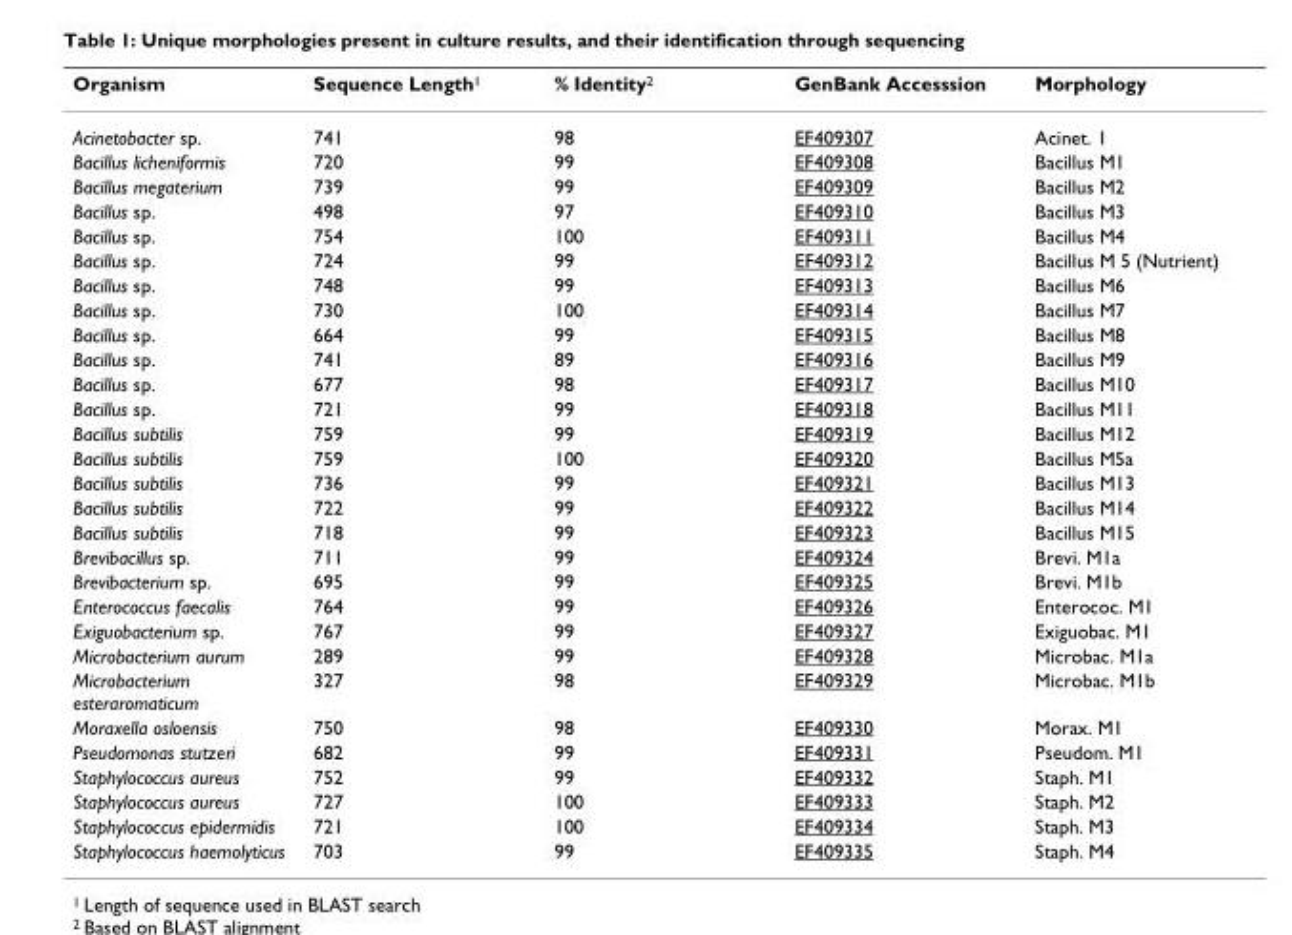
<table><thead><tr><td>Organism</td><td>Sequence Length<sup>1</sup></td><td>% Identity<sup>2</sup></td><td>GenBank Accesssion</td><td>Morphology</td></tr></thead><tbody><tr><td>Acinetobacter sp.</td><td>741</td><td>98</td><td>EF409307</td><td>Acinet. 1</td></tr><tr><td>Bacillus licheniformis</td><td>720</td><td>99</td><td>EF409308</td><td>Bacillus M1</td></tr><tr><td>Bacillus megaterium</td><td>739</td><td>99</td><td>EF409309</td><td>Bacillus M2</td></tr><tr><td>Bacillus sp.</td><td>498</td><td>97</td><td>EF409310</td><td>Bacillus M3</td></tr><tr><td>Bacillus sp.</td><td>754</td><td>100</td><td>EF409311</td><td>Bacillus M4</td></tr><tr><td>Bacillus sp.</td><td>724</td><td>99</td><td>EF409312</td><td>Bacillus M 5 (Nutrient)</td></tr><tr><td>Bacillus sp.</td><td>748</td><td>99</td><td>EF409313</td><td>Bacillus M6</td></tr><tr><td>Bacillus sp.</td><td>730</td><td>100</td><td>EF409314</td><td>Bacillus M7</td></tr><tr><td>Bacillus sp.</td><td>664</td><td>99</td><td>EF409315</td><td>Bacillus M8</td></tr><tr><td>Bacillus sp.</td><td>741</td><td>89</td><td>EF409316</td><td>Bacillus M9</td></tr><tr><td>Bacillus sp.</td><td>677</td><td>98</td><td>EF409317</td><td>Bacillus M10</td></tr><tr><td>Bacillus sp.</td><td>721</td><td>99</td><td>EF409318</td><td>Bacillus M11</td></tr><tr><td>Bacillus subtilis</td><td>759</td><td>99</td><td>EF409319</td><td>Bacillus M12</td></tr><tr><td>Bacillus subtilis</td><td>759</td><td>100</td><td>EF409320</td><td>Bacillus M5a</td></tr><tr><td>Bacillus subtilis</td><td>736</td><td>99</td><td>EF409321</td><td>Bacillus M13</td></tr><tr><td>Bacillus subtilis</td><td>722</td><td>99</td><td>EF409322</td><td>Bacillus M14</td></tr><tr><td>Bacillus subtilis</td><td>718</td><td>99</td><td>EF409323</td><td>Bacillus M15</td></tr><tr><td>Brevibacillus sp.</td><td>711</td><td>99</td><td>EF409324</td><td>Brevi. M1a</td></tr><tr><td>Brevibacterium sp.</td><td>695</td><td>99</td><td>EF409325</td><td>Brevi. M1b</td></tr><tr><td>Enterococcus faecalis</td><td>764</td><td>99</td><td>EF409326</td><td>Enterococ. M1</td></tr><tr><td>Exiguobacterium sp.</td><td>767</td><td>99</td><td>EF409327</td><td>Exiguobac. M1</td></tr><tr><td>Microbacterium aurum</td><td>289</td><td>99</td><td>EF409328</td><td>Microbac. M1a</td></tr><tr><td>Microbacterium esteraromaticum</td><td>327</td><td>98</td><td>EF409329</td><td>Microbac. M1b</td></tr><tr><td>Moraxella osloensis</td><td>750</td><td>98</td><td>EF409330</td><td>Morax. M1</td></tr><tr><td>Pseudomonas stutzeri</td><td>682</td><td>99</td><td>EF409331</td><td>Pseudom. M1</td></tr><tr><td>Staphylococcus aureus</td><td>752</td><td>99</td><td>EF409332</td><td>Staph. M1</td></tr><tr><td>Staphylococcus aureus</td><td>727</td><td>100</td><td>EF409333</td><td>Staph. M2</td></tr><tr><td>Staphylococcus epidermidis</td><td>721</td><td>100</td><td>EF409334</td><td>Staph. M3</td></tr><tr><td>Staphylococcus haemolyticus</td><td>703</td><td>99</td><td>EF409335</td><td>Staph. M4</td></tr></tbody></table>